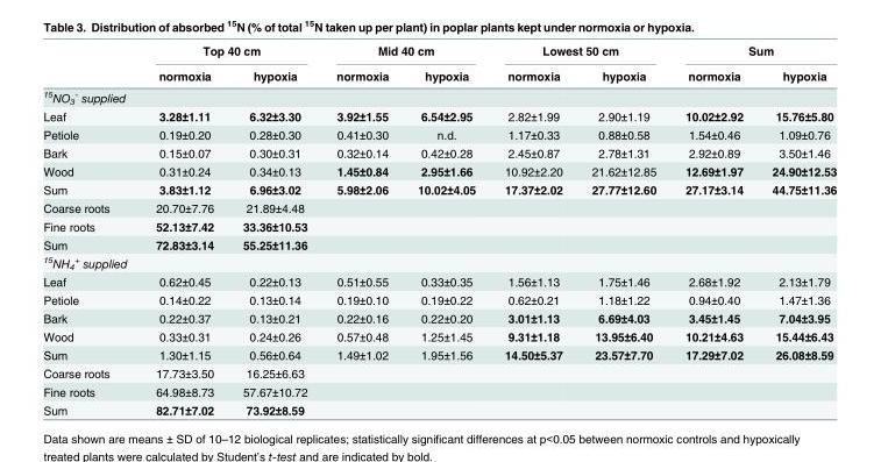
<table><thead><tr><td rowspan="2"></td><td colspan="2">Top 40 cm</td><td colspan="2">Mid 40 cm</td><td colspan="2">Lowest 50 cm</td><td colspan="2">Sum</td></tr><tr><td>normoxia</td><td>hypoxia</td><td>normoxia</td><td>hypoxia</td><td>normoxia</td><td>hypoxia</td><td>normoxia</td><td>hypoxia</td></tr></thead><tbody><tr><td colspan="9"><sup>15</sup>NO<sub>3</sub> <sup>-</sup> supplied</td></tr><tr><td>Leaf</td><td>3.28±1.11</td><td>6.32±3.30</td><td>3.92±1.55</td><td>6.54±2.95</td><td>2.82±1.99</td><td>2.90±1.19</td><td>10.02±2.92</td><td>15.76±5.80</td></tr><tr><td>Petiole</td><td>0.19±0.20</td><td>0.28±0.30</td><td>0.41±0.30</td><td>n.d.</td><td>1.17±0.33</td><td>0.88±0.58</td><td>1.54±0.46</td><td>1.09±0.76</td></tr><tr><td>Bark</td><td>0.15±0.07</td><td>0.30±0.31</td><td>0.32±0.14</td><td>0.42±0.28</td><td>2.45±0.87</td><td>2.78±1.31</td><td>2.92±0.89</td><td>3.50±1.46</td></tr><tr><td>Wood</td><td>0.31±0.24</td><td>0.34±0.13</td><td>1.45±0.84</td><td>2.95±1.66</td><td>10.92±2.20</td><td>21.62±12.85</td><td>12.69±1.97</td><td>24.90±12.53</td></tr><tr><td>Sum</td><td>3.83±1.12</td><td>6.96±3.02</td><td>5.98±2.06</td><td>10.02±4.05</td><td>17.37±2.02</td><td>27.77±12.60</td><td>27.17±3.14</td><td>44.75±11.36</td></tr><tr><td>Coarse roots</td><td>20.70±7.76</td><td>21.89±4.48</td><td></td><td></td><td></td><td></td><td></td><td></td></tr><tr><td>Fine roots</td><td>52.13±7.42</td><td>33.36±10.53</td><td></td><td></td><td></td><td></td><td></td><td></td></tr><tr><td>Sum</td><td>72.83±3.14</td><td>55.25±11.36</td><td></td><td></td><td></td><td></td><td></td><td></td></tr><tr><td colspan="9"><sup>15</sup>NH<sub>4</sub> <sup>+</sup> supplied</td></tr><tr><td>Leaf</td><td>0.62±0.45</td><td>0.22±0.13</td><td>0.51±0.55</td><td>0.33±0.35</td><td>1.56±1.13</td><td>1.75±1.46</td><td>2.68±1.92</td><td>2.13±1.79</td></tr><tr><td>Petiole</td><td>0.14±0.22</td><td>0.13±0.14</td><td>0.19±0.10</td><td>0.19±0.22</td><td>0.62±0.21</td><td>1.18±1.22</td><td>0.94±0.40</td><td>1.47±1.36</td></tr><tr><td>Bark</td><td>0.22±0.37</td><td>0.13±0.21</td><td>0.22±0.16</td><td>0.22±0.20</td><td>3.01±1.13</td><td>6.69±4.03</td><td>3.45±1.45</td><td>7.04±3.95</td></tr><tr><td>Wood</td><td>0.33±0.31</td><td>0.24±0.26</td><td>0.57±0.48</td><td>1.25±1.45</td><td>9.31±1.18</td><td>13.95±6.40</td><td>10.21±4.63</td><td>15.44±6.43</td></tr><tr><td>Sum</td><td>1.30±1.15</td><td>0.56±0.64</td><td>1.49±1.02</td><td>1.95±1.56</td><td>14.50±5.37</td><td>23.57±7.70</td><td>17.29±7.02</td><td>26.08±8.59</td></tr><tr><td>Coarse roots</td><td>17.73±3.50</td><td>16.25±6.63</td><td></td><td></td><td></td><td></td><td></td><td></td></tr><tr><td>Fine roots</td><td>64.98±8.73</td><td>57.67±10.72</td><td></td><td></td><td></td><td></td><td></td><td></td></tr><tr><td>Sum</td><td>82.71±7.02</td><td>73.92±8.59</td><td></td><td></td><td></td><td></td><td></td><td></td></tr></tbody></table>